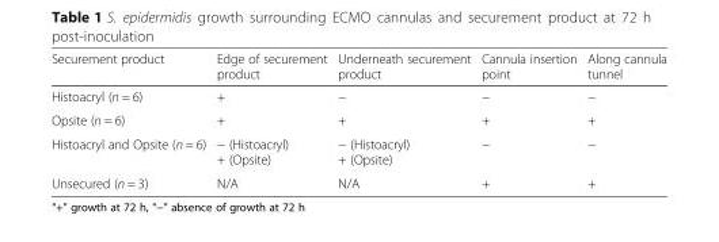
<table><thead><tr><td>Securement product</td><td>Edge of securement product</td><td>Underneath securement product</td><td>Cannula insertion point</td><td>Along cannula tunnel</td></tr></thead><tbody><tr><td>Histoacryl (n = 6)</td><td>+</td><td>−</td><td>−</td><td>−</td></tr><tr><td>Opsite (n = 6)</td><td>+</td><td>+</td><td>+</td><td>+</td></tr><tr><td>Histoacryl and Opsite (n = 6)</td><td>− (Histoacryl) + (Opsite)</td><td>− (Histoacryl) + (Opsite)</td><td>−</td><td>−</td></tr><tr><td>Unsecured (n = 3)</td><td>N/A</td><td>N/A</td><td>+</td><td>+</td></tr></tbody></table>